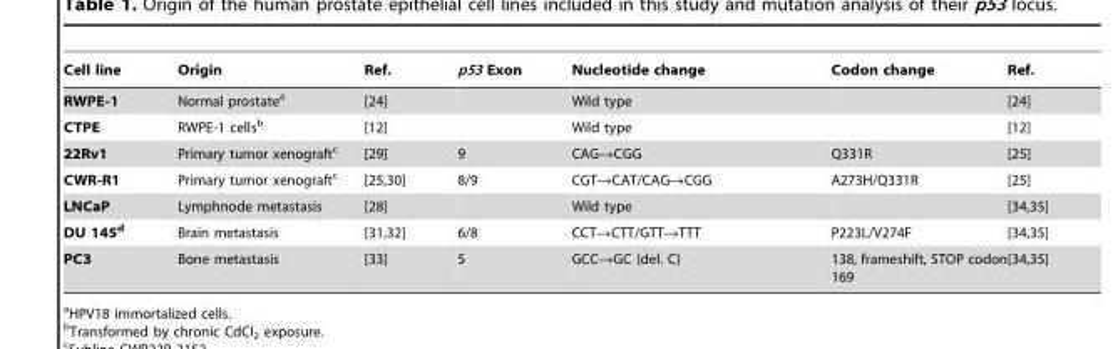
<table><thead><tr><td>Cell line</td><td>Origin</td><td>Ref.</td><td>p53 Exon</td><td>Nucleotide change</td><td>Codon change</td><td>Ref.</td></tr></thead><tbody><tr><td>RWPE-1</td><td>Normal prostate<sup>a</sup></td><td>[24]</td><td></td><td>Wild type</td><td></td><td>[24]</td></tr><tr><td>CTPE</td><td>RWPE-1 cells<sup>b</sup></td><td>[12]</td><td></td><td>Wild type</td><td></td><td>[12]</td></tr><tr><td>22Rv1</td><td>Primary tumor xenograft<sup>c</sup></td><td>[29]</td><td>9</td><td>CAG→CGG</td><td>Q331R</td><td>[25]</td></tr><tr><td>CWR-R1</td><td>Primary tumor xenograft<sup>c</sup></td><td>[25,30]</td><td>8/9</td><td>CGT→CAT/CAG→CGG</td><td>A273H/Q331R</td><td>[25]</td></tr><tr><td>LNCaP</td><td>Lymphnode metastasis</td><td>[28]</td><td></td><td>Wild type</td><td></td><td>[34,35]</td></tr><tr><td>DU 145d</td><td>Brain metastasis</td><td>[31,32]</td><td>6/8</td><td>CCT→CTT/GTT→TTT</td><td>P223L/V274F</td><td>[34,35]</td></tr><tr><td>PC3</td><td>Bone metastasis</td><td>[33]</td><td>5</td><td>GCC→GC (del. C)</td><td>138, frameshift, STOP codon 169</td><td>[34,35]</td></tr></tbody></table>